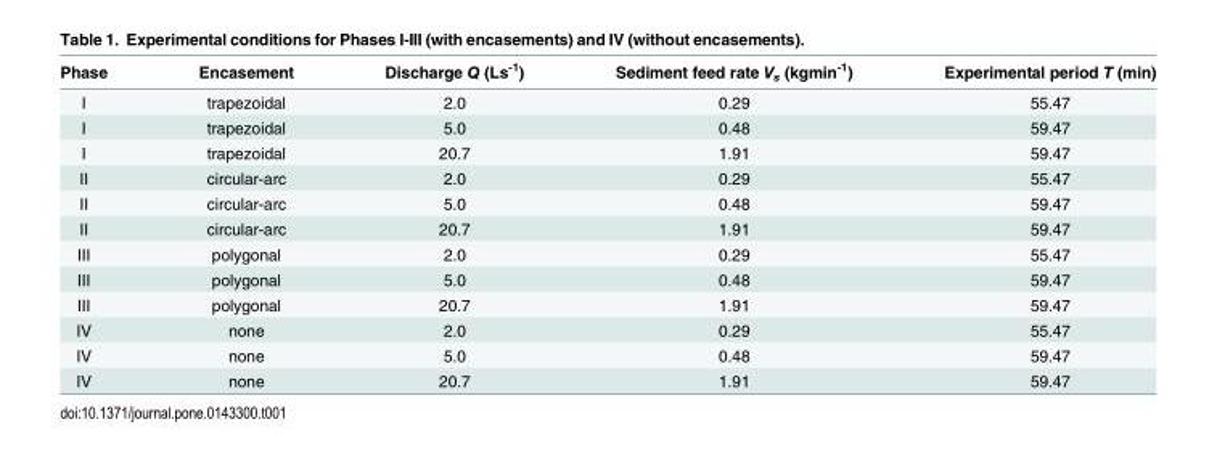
<table><thead><tr><td>Phase</td><td>Encasement</td><td>Discharge Q (Ls<sup>-1</sup>)</td><td>Sediment feed rate V<sub>s</sub> (kgmin<sup>-1</sup>)</td><td>Experimental period T (min)</td></tr></thead><tbody><tr><td>I</td><td>trapezoidal</td><td>2.0</td><td>0.29</td><td>55.47</td></tr><tr><td>I</td><td>trapezoidal</td><td>5.0</td><td>0.48</td><td>59.47</td></tr><tr><td>I</td><td>trapezoidal</td><td>20.7</td><td>1.91</td><td>59.47</td></tr><tr><td>II</td><td>circular-arc</td><td>2.0</td><td>0.29</td><td>55.47</td></tr><tr><td>II</td><td>circular-arc</td><td>5.0</td><td>0.48</td><td>59.47</td></tr><tr><td>II</td><td>circular-arc</td><td>20.7</td><td>1.91</td><td>59.47</td></tr><tr><td>III</td><td>polygonal</td><td>2.0</td><td>0.29</td><td>55.47</td></tr><tr><td>III</td><td>polygonal</td><td>5.0</td><td>0.48</td><td>59.47</td></tr><tr><td>III</td><td>polygonal</td><td>20.7</td><td>1.91</td><td>59.47</td></tr><tr><td>IV</td><td>none</td><td>2.0</td><td>0.29</td><td>55.47</td></tr><tr><td>IV</td><td>none</td><td>5.0</td><td>0.48</td><td>59.47</td></tr><tr><td>IV</td><td>none</td><td>20.7</td><td>1.91</td><td>59.47</td></tr></tbody></table>